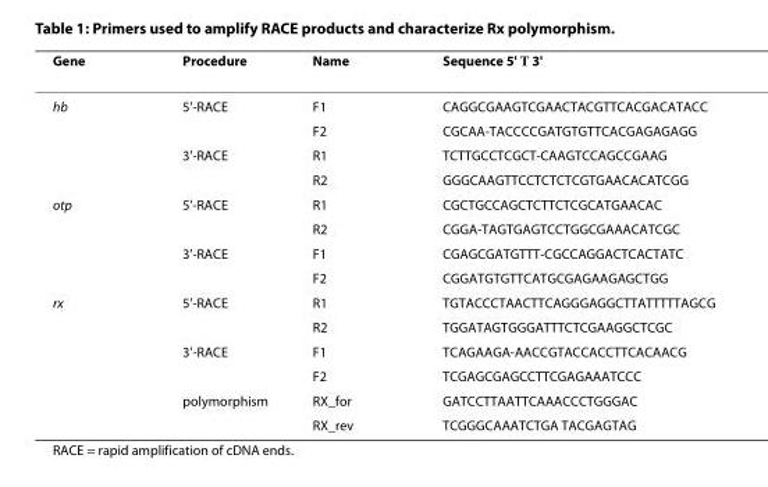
<table><thead><tr><td>Gene</td><td>Procedure</td><td>Name</td><td>Sequence 5&#x27; → 3&#x27;</td></tr></thead><tbody><tr><td rowspan="4">hb</td><td>5&#x27;-RACE</td><td>F1</td><td>CAGGCGAAGTCGAACTACGTTCACGACATACC</td></tr><tr><td></td><td>F2</td><td>CGCAA-TACCCCGATGTGTTCACGAGAGAGG</td></tr><tr><td>3&#x27;-RACE</td><td>R1</td><td>TCTTGCCTCGCT-CAAGTCCAGCCGAAG</td></tr><tr><td></td><td>R2</td><td>GGGCAAGTTCCTCTCTCGTGAACACATCGG</td></tr><tr><td rowspan="4">otp</td><td>5&#x27;-RACE</td><td>R1</td><td>CGCTGCCAGCTCTTCTCGCATGAACAC</td></tr><tr><td></td><td>R2</td><td>CGGA-TAGTGAGTCCTGGCGAAACATCGC</td></tr><tr><td>3&#x27;-RACE</td><td>F1</td><td>CGAGCGATGTTT-CGCCAGGACTCACTATC</td></tr><tr><td></td><td>F2</td><td>CGGATGTGTTCATGCGAGAAGAGCTGG</td></tr><tr><td rowspan="6">rx</td><td>5&#x27;-RACE</td><td>R1</td><td>TGTACCCTAACTTCAGGGAGGCTTATTTTTAGCG</td></tr><tr><td></td><td>R2</td><td>TGGATAGTGGGATTTCTCGAAGGCTCGC</td></tr><tr><td>3&#x27;-RACE</td><td>F1</td><td>TCAGAAGA-AACCGTACCACCTTCACAACG</td></tr><tr><td></td><td>F2</td><td>TCGAGCGAGCCTTCGAGAAATCCC</td></tr><tr><td>polymorphism</td><td>RX_for</td><td>GATCCTTAATTCAAACCCTGGGAC</td></tr><tr><td></td><td>RX_rev</td><td>TCGGGCAAATCTGA TACGAGTAG</td></tr></tbody></table>